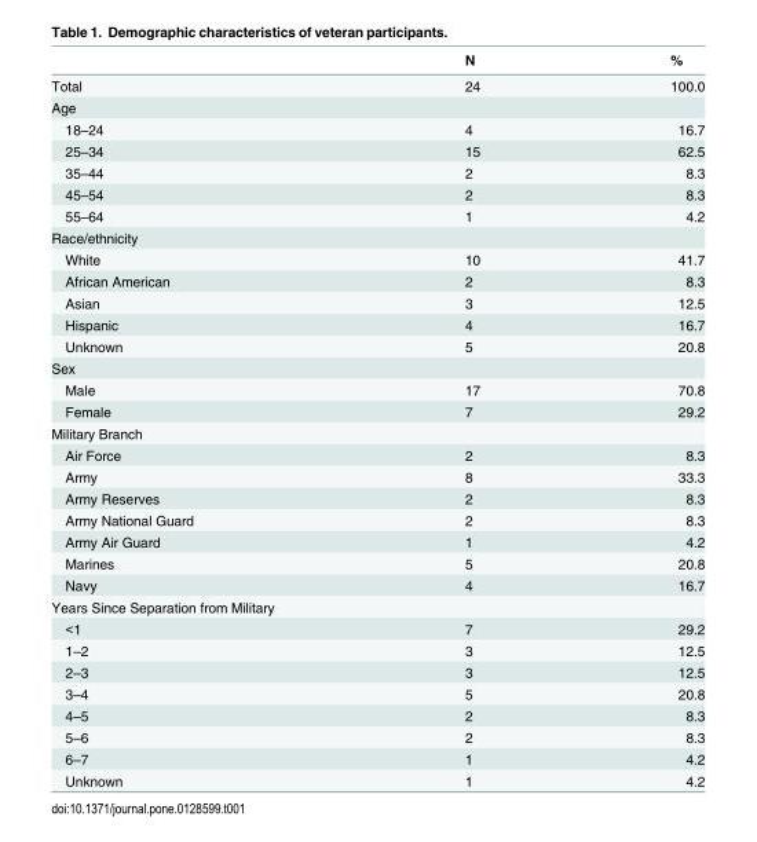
<table><thead><tr><td></td><td>N</td><td>%</td></tr></thead><tbody><tr><td>Total</td><td>24</td><td>100.0</td></tr><tr><td colspan="3">Age</td></tr><tr><td>18–24</td><td>4</td><td>16.7</td></tr><tr><td>25–34</td><td>15</td><td>62.5</td></tr><tr><td>35–44</td><td>2</td><td>8.3</td></tr><tr><td>45–54</td><td>2</td><td>8.3</td></tr><tr><td>55–64</td><td>1</td><td>4.2</td></tr><tr><td colspan="3">Race/ethnicity</td></tr><tr><td>White</td><td>10</td><td>41.7</td></tr><tr><td>African American</td><td>2</td><td>8.3</td></tr><tr><td>Asian</td><td>3</td><td>12.5</td></tr><tr><td>Hispanic</td><td>4</td><td>16.7</td></tr><tr><td>Unknown</td><td>5</td><td>20.8</td></tr><tr><td colspan="3">Sex</td></tr><tr><td>Male</td><td>17</td><td>70.8</td></tr><tr><td>Female</td><td>7</td><td>29.2</td></tr><tr><td colspan="3">Military Branch</td></tr><tr><td>Air Force</td><td>2</td><td>8.3</td></tr><tr><td>Army</td><td>8</td><td>33.3</td></tr><tr><td>Army Reserves</td><td>2</td><td>8.3</td></tr><tr><td>Army National Guard</td><td>2</td><td>8.3</td></tr><tr><td>Army Air Guard</td><td>1</td><td>4.2</td></tr><tr><td>Marines</td><td>5</td><td>20.8</td></tr><tr><td>Navy</td><td>4</td><td>16.7</td></tr><tr><td colspan="3">Years Since Separation from Military</td></tr><tr><td>&lt;1</td><td>7</td><td>29.2</td></tr><tr><td>1–2</td><td>3</td><td>12.5</td></tr><tr><td>2–3</td><td>3</td><td>12.5</td></tr><tr><td>3–4</td><td>5</td><td>20.8</td></tr><tr><td>4–5</td><td>2</td><td>8.3</td></tr><tr><td>5–6</td><td>2</td><td>8.3</td></tr><tr><td>6–7</td><td>1</td><td>4.2</td></tr><tr><td>Unknown</td><td>1</td><td>4.2</td></tr></tbody></table>